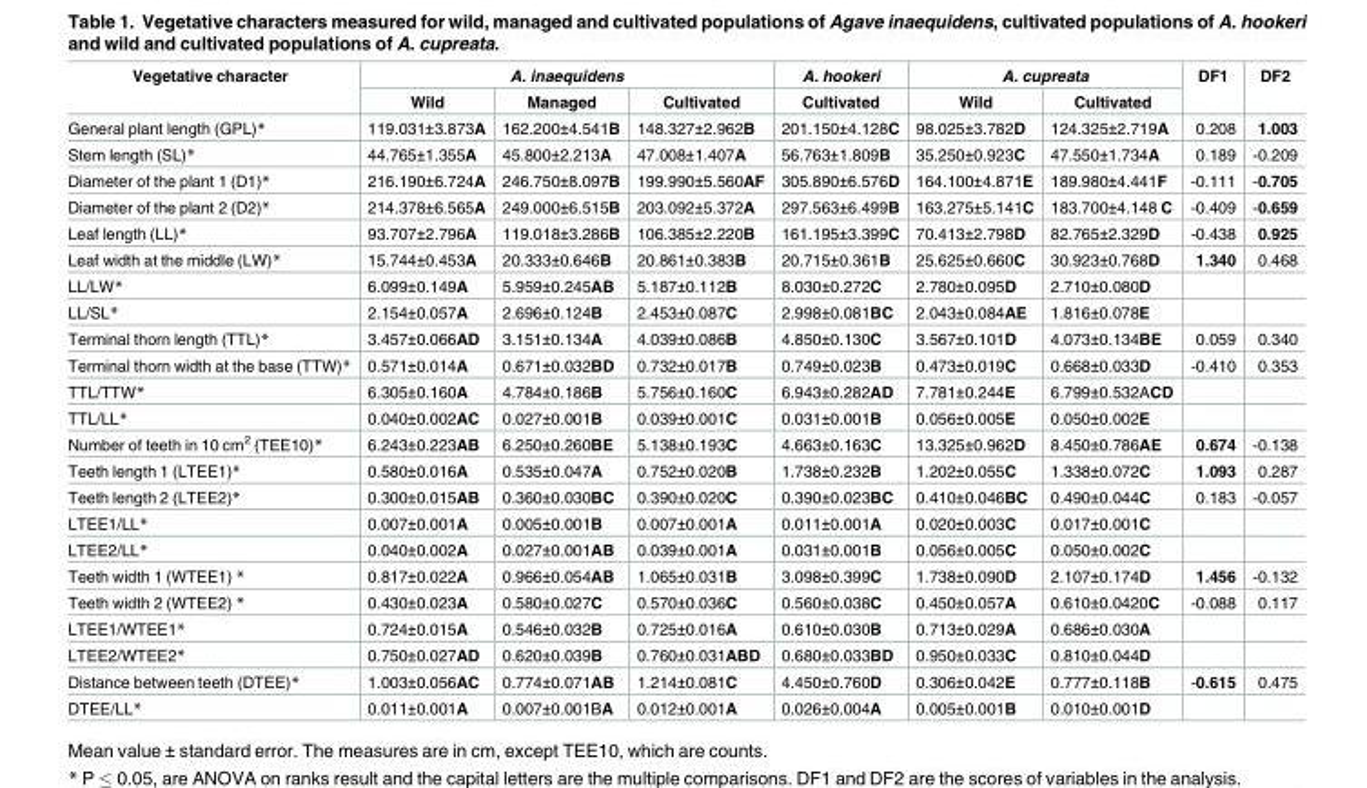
<table><thead><tr><td rowspan="2">Vegetative character</td><td colspan="3">A. inaequidens</td><td rowspan="2">A. hookeri Cultivated</td><td colspan="2">A. cupreata</td><td rowspan="2">DF1</td><td rowspan="2">DF2</td></tr><tr><td>Wild</td><td>Managed</td><td>Cultivated</td><td>Wild</td><td>Cultivated</td></tr></thead><tbody><tr><td>General plant length (GPL)*</td><td>119.031±3.873A</td><td>162.200±4.541B</td><td>148.327±2.962B</td><td>201.150±4.128C</td><td>98.025±3.782D</td><td>124.325±2.719A</td><td>0.208</td><td>1.003</td></tr><tr><td>Stem length (SL)*</td><td>44.765±1.355A</td><td>45.800±2.213A</td><td>47.008±1.407A</td><td>56.763±1.809B</td><td>35.250±0.923C</td><td>47.550±1.734A</td><td>0.189</td><td>-0.209</td></tr><tr><td>Diameter of the plant 1 (D1)*</td><td>216.190±6.724A</td><td>246.750±8.097B</td><td>199.990±5.560AF</td><td>305.890±6.576D</td><td>164.100±4.871E</td><td>189.980±4.441F</td><td>-0.111</td><td>-0.705</td></tr><tr><td>Diameter of the plant 2 (D2)*</td><td>214.378±6.565A</td><td>249.000±6.515B</td><td>203.092±5.372A</td><td>297.563±6.499B</td><td>163.275±5.141C</td><td>183.700±4.148 C</td><td>-0.409</td><td>-0.659</td></tr><tr><td>Leaf length (LL)*</td><td>93.707±2.796A</td><td>119.018±3.286B</td><td>106.385±2.220B</td><td>161.195±3.399C</td><td>70.413±2.798D</td><td>82.765±2.329D</td><td>-0.438</td><td>0.925</td></tr><tr><td>Leaf width at the middle (LW)*</td><td>15.744±0.453A</td><td>20.333±0.646B</td><td>20.861±0.383B</td><td>20.715±0.361B</td><td>25.625±0.660C</td><td>30.923±0.768D</td><td>1.340</td><td>0.468</td></tr><tr><td>LL/LW*</td><td>6.099±0.149A</td><td>5.959±0.245AB</td><td>5.187±0.112B</td><td>8.030±0.272C</td><td>2.780±0.095D</td><td>2.710±0.080D</td><td></td><td></td></tr><tr><td>LL/SL*</td><td>2.154±0.057A</td><td>2.696±0.124B</td><td>2.453±0.087C</td><td>2.998±0.081BC</td><td>2.043±0.084AE</td><td>1.816±0.078E</td><td></td><td></td></tr><tr><td>Terminal thorn length (TTL)*</td><td>3.457±0.066AD</td><td>3.151±0.134A</td><td>4.039±0.086B</td><td>4.850±0.130C</td><td>3.567±0.101D</td><td>4.073±0.134BE</td><td>0.059</td><td>0.340</td></tr><tr><td>Terminal thorn width at the base (TTW)*</td><td>0.571±0.014A</td><td>0.671±0.032BD</td><td>0.732±0.017B</td><td>0.749±0.023B</td><td>0.473±0.019C</td><td>0.668±0.033D</td><td>-0.410</td><td>0.353</td></tr><tr><td>TTL/TTW*</td><td>6.305±0.160A</td><td>4.784±0.186B</td><td>5.756±0.160C</td><td>6.943±0.282AD</td><td>7.781±0.244E</td><td>6.799±0.532ACD</td><td></td><td></td></tr><tr><td>TTL/LL*</td><td>0.040±0.002AC</td><td>0.027±0.001B</td><td>0.039±0.001C</td><td>0.031±0.001B</td><td>0.056±0.005E</td><td>0.050±0.002E</td><td></td><td></td></tr><tr><td>Number of teeth in 10 cm<sup>2</sup> (TEE10)*</td><td>6.243±0.223AB</td><td>6.250±0.260BE</td><td>5.138±0.193C</td><td>4.663±0.163C</td><td>13.325±0.962D</td><td>8.450±0.786AE</td><td>0.674</td><td>-0.138</td></tr><tr><td>Teeth length 1 (LTEE1)*</td><td>0.580±0.016A</td><td>0.535±0.047A</td><td>0.752±0.020B</td><td>1.738±0.232B</td><td>1.202±0.055C</td><td>1.338±0.072C</td><td>1.093</td><td>0.287</td></tr><tr><td>Teeth length 2 (LTEE2)*</td><td>0.300±0.015AB</td><td>0.360±0.030BC</td><td>0.390±0.020C</td><td>0.390±0.023BC</td><td>0.410±0.046BC</td><td>0.490±0.044C</td><td>0.183</td><td>-0.057</td></tr><tr><td>LTEE1/LL*</td><td>0.007±0.001A</td><td>0.005±0.001B</td><td>0.007±0.001A</td><td>0.011±0.001A</td><td>0.020±0.003C</td><td>0.017±0.001C</td><td></td><td></td></tr><tr><td>LTEE2/LL*</td><td>0.040±0.002A</td><td>0.027±0.001AB</td><td>0.039±0.001A</td><td>0.031±0.001B</td><td>0.056±0.005C</td><td>0.050±0.002C</td><td></td><td></td></tr><tr><td>Teeth width 1 (WTEE1) *</td><td>0.817±0.022A</td><td>0.966±0.054AB</td><td>1.065±0.031B</td><td>3.098±0.399C</td><td>1.738±0.090D</td><td>2.107±0.174D</td><td>1.456</td><td>-0.132</td></tr><tr><td>Teeth width 2 (WTEE2) *</td><td>0.430±0.023A</td><td>0.580±0.027C</td><td>0.570±0.036C</td><td>0.560±0.038C</td><td>0.450±0.057A</td><td>0.610±0.0420C</td><td>-0.088</td><td>0.117</td></tr><tr><td>LTEE1/WTEE1*</td><td>0.724±0.015A</td><td>0.546±0.032B</td><td>0.725±0.016A</td><td>0.610±0.030B</td><td>0.713±0.029A</td><td>0.686±0.030A</td><td></td><td></td></tr><tr><td>LTEE2/WTEE2*</td><td>0.750±0.027AD</td><td>0.620±0.039B</td><td>0.760±0.031ABD</td><td>0.680±0.033BD</td><td>0.950±0.033C</td><td>0.810±0.044D</td><td></td><td></td></tr><tr><td>Distance between teeth (DTEE)*</td><td>1.003±0.056AC</td><td>0.774±0.071AB</td><td>1.214±0.081C</td><td>4.450±0.760D</td><td>0.306±0.042E</td><td>0.777±0.118B</td><td>-0.615</td><td>0.475</td></tr><tr><td>DTEE/LL*</td><td>0.011±0.001A</td><td>0.007±0.001BA</td><td>0.012±0.001A</td><td>0.026±0.004A</td><td>0.005±0.001B</td><td>0.010±0.001D</td><td></td><td></td></tr></tbody></table>